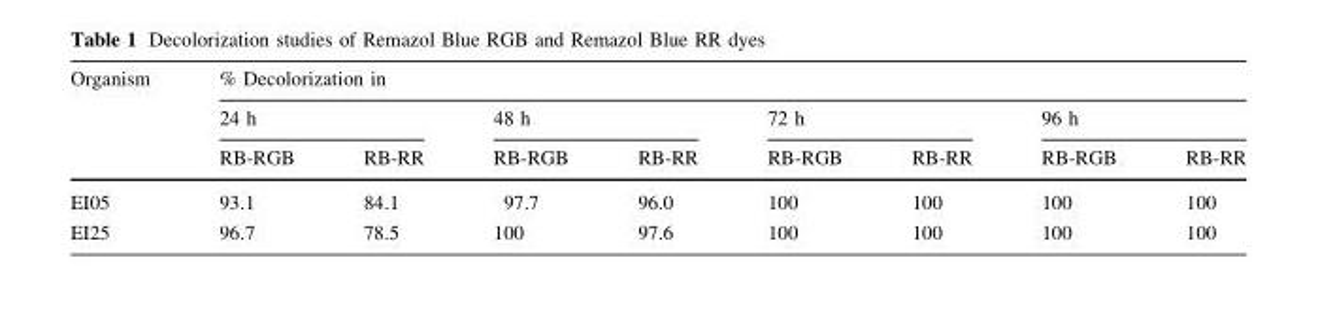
<table><thead><tr><td rowspan="3">Organism</td><td colspan="8">% Decolorization in</td></tr><tr><td colspan="2">24 h</td><td colspan="2">48 h</td><td colspan="2">72 h</td><td colspan="2">96 h</td></tr><tr><td>RB-RGB</td><td>RB-RR</td><td>RB-RGB</td><td>RB-RR</td><td>RB-RGB</td><td>RB-RR</td><td>RB-RGB</td><td>RB-RR</td></tr></thead><tbody><tr><td>EI05</td><td>93.1</td><td>84.1</td><td>97.7</td><td>96.0</td><td>100</td><td>100</td><td>100</td><td>100</td></tr><tr><td>EI25</td><td>96.7</td><td>78.5</td><td>100</td><td>97.6</td><td>100</td><td>100</td><td>100</td><td>100</td></tr></tbody></table>